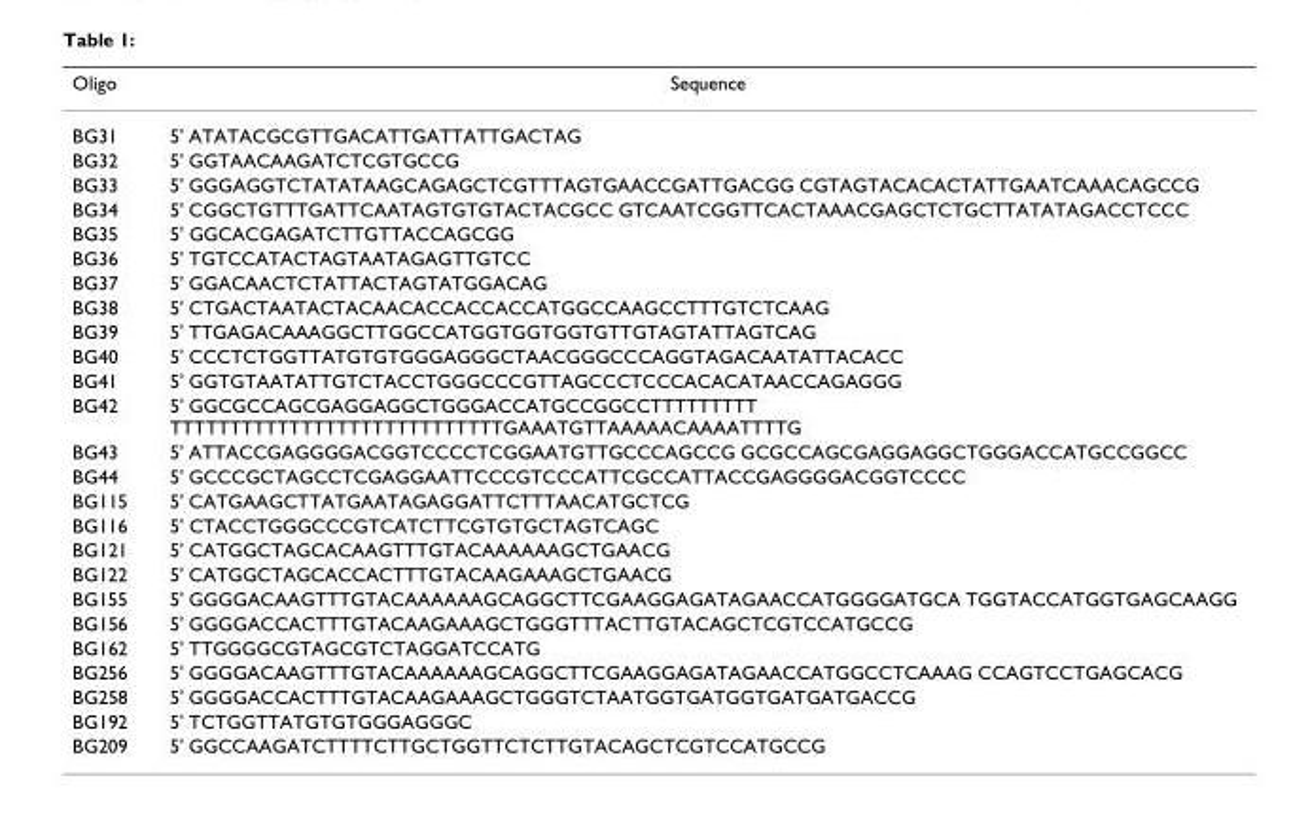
<table><thead><tr><td>Oligo</td><td>Sequence</td></tr></thead><tbody><tr><td>BG31</td><td>5&#x27; ATATACGCGTTGACATTGATTATTGACTAG</td></tr><tr><td>BG32</td><td>5&#x27; GGTAACAAGATCTCGTGCCG</td></tr><tr><td>BG33</td><td>5&#x27; GGGAGGTCTATATAAGCAGAGCTCGTTTAGTGAACCGATTGACGG CGTAGTACACACTATTGAATCAAACAGCCG</td></tr><tr><td>BG34</td><td>5&#x27; CGGCTGTTTGATTCAATAGTGTGTACTACGCC GTCAATCGGTTCACTAAACGAGCTCTGCTTATATAGACCTCCC</td></tr><tr><td>BG35</td><td>5&#x27; GGCACGAGATCTTGTTACCAGCGG</td></tr><tr><td>BG36</td><td>5&#x27; TGTCCATACTAGTAATAGAGTTGTCC</td></tr><tr><td>BG37</td><td>5&#x27; GGACAACTCTATTACTAGTATGGACAG</td></tr><tr><td>BG38</td><td>5&#x27; CTGACTAATACTACAACACCACCACCATGGCCAAGCCTTTGTCTCAAG</td></tr><tr><td>BG39</td><td>5&#x27; TTGAGACAAAGGCTTGGCCATGGTGGTGGTGTTGTAGTATTAGTCAG</td></tr><tr><td>BG40</td><td>5&#x27; CCCTCTGGTTATGTGTGGGAGGGCTAACGGGCCCAGGTAGACAATATTACACC</td></tr><tr><td>BG41</td><td>5&#x27; GGTGTAATATTGTCTACCTGGGCCCGTTAGCCCTCCCACACATAACCAGAGGG</td></tr><tr><td>BG42</td><td>5&#x27; GGCGCCAGCGAGGAGGCTGGGACCATGCCGGCCTTTTTTTTT TTTTTTTTTTTTTTTTTTTTTTTTTTTTGAAATGTTAAAAACAAAATTTTG</td></tr><tr><td>BG43</td><td>5&#x27; ATTACCGAGGGGACGGTCCCCTCGGAATGTTGCCCAGCCG GCGCCAGCGAGGAGGCTGGGACCATGCCGGCC</td></tr><tr><td>BG44</td><td>5&#x27; GCCCGCTAGCCTCGAGGAATTCCCGTCCCATTCGCCATTACCGAGGGGACGGTCCCC</td></tr><tr><td>BG115</td><td>5&#x27; CATGAAGCTTATGAATAGAGGATTCTTTAACATGCTCG</td></tr><tr><td>BG116</td><td>5&#x27; CTACCTGGGCCCGTCATCTTCGTGTGCTAGTCAGC</td></tr><tr><td>BG121</td><td>5&#x27; CATGGCTAGCACAAGTTTGTACAAAAAAGCTGAACG</td></tr><tr><td>BG122</td><td>5&#x27; CATGGCTAGCACCACTTTGTACAAGAAAGCTGAACG</td></tr><tr><td>BG155</td><td>5&#x27; GGGGACAAGTTTGTACAAAAAAGCAGGCTTCGAAGGAGATAGAACCATGGGGATGCA TGGTACCATGGTGAGCAAGG</td></tr><tr><td>BG156</td><td>5&#x27; GGGGACCACTTTGTACAAGAAAGCTGGGTTTACTTGTACAGCTCGTCCATGCCG</td></tr><tr><td>BG162</td><td>5&#x27; TTGGGGCGTAGCGTCTAGGATCCATG</td></tr><tr><td>BG256</td><td>5&#x27; GGGGACAAGTTTGTACAAAAAAGCAGGCTTCGAAGGAGATAGAACCATGGCCTCAAAG CCAGTCCTGAGCACG</td></tr><tr><td>BG258</td><td>5&#x27; GGGGACCACTTTGTACAAGAAAGCTGGGTCTAATGGTGATGGTGATGATGACCG</td></tr><tr><td>BG192</td><td>5&#x27; TCTGGTTATGTGTGGGAGGGC</td></tr><tr><td>BG209</td><td>5&#x27; GGCCAAGATCTTTTCTTGCTGGTTCTCTTGTACAGCTCGTCCATGCCG</td></tr></tbody></table>